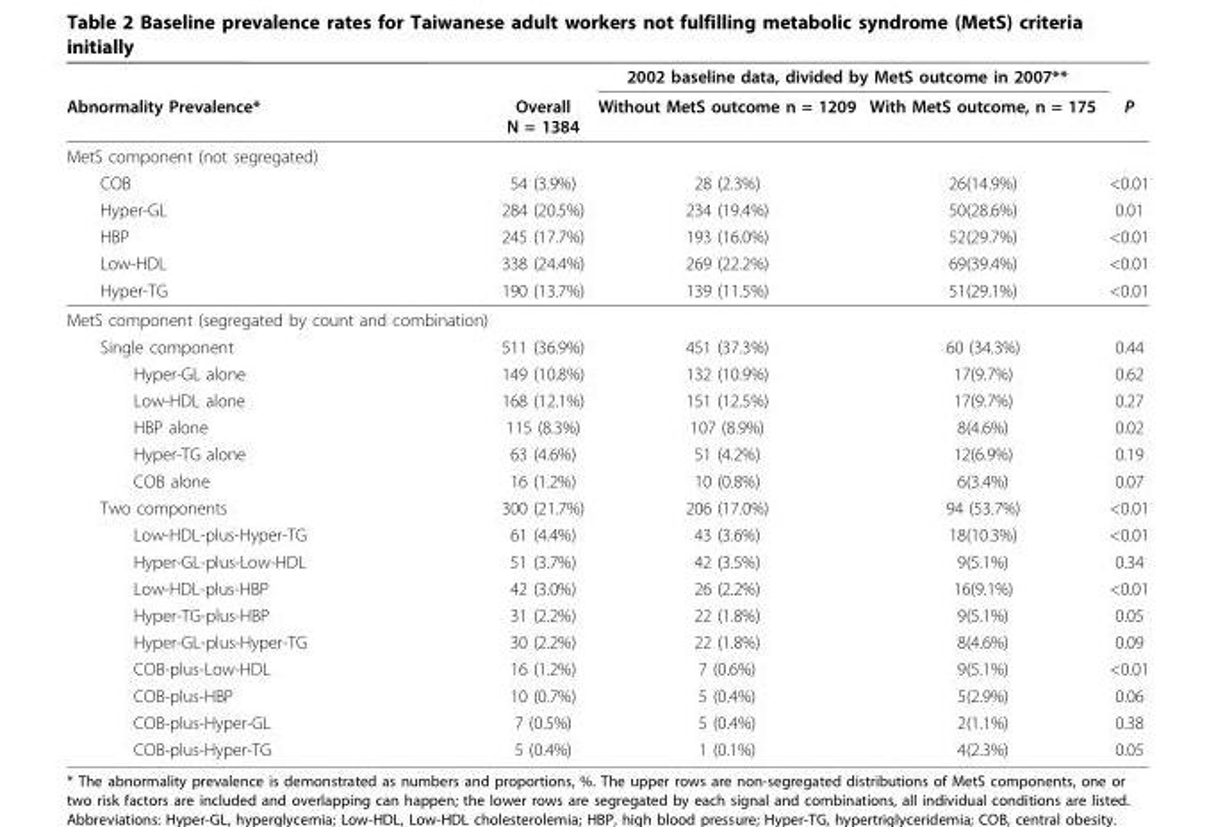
<table><thead><tr><td rowspan="2">Abnormality Prevalence*</td><td rowspan="2">Overall N = 1384</td><td colspan="2">2002 baseline data, divided by MetS outcome in 2007**</td><td rowspan="2">P</td></tr><tr><td>Without MetS outcome n = 1209</td><td>With MetS outcome, n = 175</td></tr></thead><tbody><tr><td colspan="5">MetS component (not segregated)</td></tr><tr><td>COB</td><td>54 (3.9%)</td><td>28 (2.3%)</td><td>26(14.9%)</td><td>&lt;0.01</td></tr><tr><td>Hyper-GL</td><td>284 (20.5%)</td><td>234 (19.4%)</td><td>50(28.6%)</td><td>0.01</td></tr><tr><td>HBP</td><td>245 (17.7%)</td><td>193 (16.0%)</td><td>52(29.7%)</td><td>&lt;0.01</td></tr><tr><td>Low-HDL</td><td>338 (24.4%)</td><td>269 (22.2%)</td><td>69(39.4%)</td><td>&lt;0.01</td></tr><tr><td>Hyper-TG</td><td>190 (13.7%)</td><td>139 (11.5%)</td><td>51(29.1%)</td><td>&lt;0.01</td></tr><tr><td colspan="5">MetS component (segregated by count and combination)</td></tr><tr><td>Single component</td><td>511 (36.9%)</td><td>451 (37.3%)</td><td>60 (34.3%)</td><td>0.44</td></tr><tr><td>Hyper-GL alone</td><td>149 (10.8%)</td><td>132 (10.9%)</td><td>17(9.7%)</td><td>0.62</td></tr><tr><td>Low-HDL alone</td><td>168 (12.1%)</td><td>151 (12.5%)</td><td>17(9.7%)</td><td>0.27</td></tr><tr><td>HBP alone</td><td>115 (8.3%)</td><td>107 (8.9%)</td><td>8(4.6%)</td><td>0.02</td></tr><tr><td>Hyper-TG alone</td><td>63 (4.6%)</td><td>51 (4.2%)</td><td>12(6.9%)</td><td>0.19</td></tr><tr><td>COB alone</td><td>16 (1.2%)</td><td>10 (0.8%)</td><td>6(3.4%)</td><td>0.07</td></tr><tr><td>Two components</td><td>300 (21.7%)</td><td>206 (17.0%)</td><td>94 (53.7%)</td><td>&lt;0.01</td></tr><tr><td>Low-HDL-plus-Hyper-TG</td><td>61 (4.4%)</td><td>43 (3.6%)</td><td>18(10.3%)</td><td>&lt;0.01</td></tr><tr><td>Hyper-GL-plus-Low-HDL</td><td>51 (3.7%)</td><td>42 (3.5%)</td><td>9(5.1%)</td><td>0.34</td></tr><tr><td>Low-HDL-plus-HBP</td><td>42 (3.0%)</td><td>26 (2.2%)</td><td>16(9.1%)</td><td>&lt;0.01</td></tr><tr><td>Hyper-TG-plus-HBP</td><td>31 (2.2%)</td><td>22 (1.8%)</td><td>9(5.1%)</td><td>0.05</td></tr><tr><td>Hyper-GL-plus-Hyper-TG</td><td>30 (2.2%)</td><td>22 (1.8%)</td><td>8(4.6%)</td><td>0.09</td></tr><tr><td>COB-plus-Low-HDL</td><td>16 (1.2%)</td><td>7 (0.6%)</td><td>9(5.1%)</td><td>&lt;0.01</td></tr><tr><td>COB-plus-HBP</td><td>10 (0.7%)</td><td>5 (0.4%)</td><td>5(2.9%)</td><td>0.06</td></tr><tr><td>COB-plus-Hyper-GL</td><td>7 (0.5%)</td><td>5 (0.4%)</td><td>2(1.1%)</td><td>0.38</td></tr><tr><td>COB-plus-Hyper-TG</td><td>5 (0.4%)</td><td>1 (0.1%)</td><td>4(2.3%)</td><td>0.05</td></tr></tbody></table>